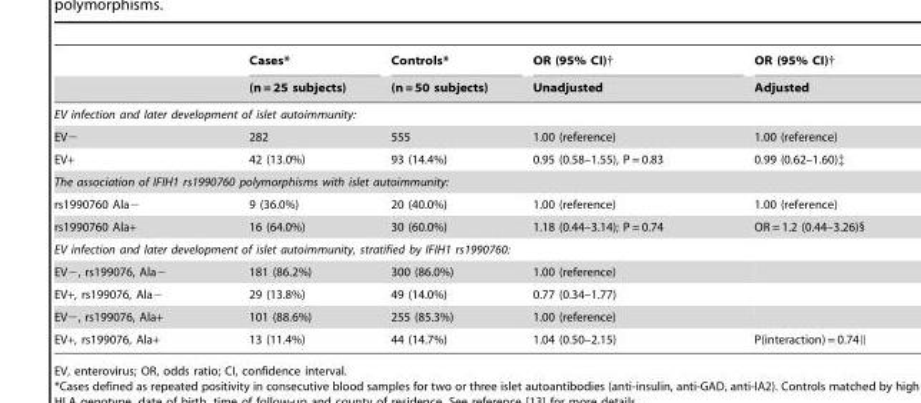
<table><thead><tr><td rowspan="2"></td><td rowspan="2">Cases* (n = 25 subjects)</td><td rowspan="2">Controls* (n = 50 subjects)</td><td rowspan="2">OR (95% CI)† Unadjusted</td><td rowspan="2">OR (95% CI)† Adjusted</td></tr><tr></tr></thead><tbody><tr><td colspan="5">EV infection and later development of islet autoimmunity:</td></tr><tr><td>EV−</td><td>282</td><td>555</td><td>1.00 (reference)</td><td>1.00 (reference)</td></tr><tr><td>EV+</td><td>42 (13.0%)</td><td>93 (14.4%)</td><td>0.95 (0.58–1.55), P = 0.83</td><td>0.99 (0.62–1.60)‡</td></tr><tr><td colspan="5">The association of IFIH1 rs1990760 polymorphisms with islet autoimmunity:</td></tr><tr><td>rs1990760 Ala−</td><td>9 (36.0%)</td><td>20 (40.0%)</td><td>1.00 (reference)</td><td>1.00 (reference)</td></tr><tr><td>rs1990760 Ala+</td><td>16 (64.0%)</td><td>30 (60.0%)</td><td>1.18 (0.44–3.14); P = 0.74</td><td>OR = 1.2 (0.44–3.26)§</td></tr><tr><td colspan="5">EV infection and later development of islet autoimmunity, stratified by IFIH1 rs1990760:</td></tr><tr><td>EV−, rs199076, Ala−</td><td>181 (86.2%)</td><td>300 (86.0%)</td><td>1.00 (reference)</td><td></td></tr><tr><td>EV+, rs199076, Ala−</td><td>29 (13.8%)</td><td>49 (14.0%)</td><td>0.77 (0.34–1.77)</td><td></td></tr><tr><td>EV−, rs199076, Ala+</td><td>101 (88.6%)</td><td>255 (85.3%)</td><td>1.00 (reference)</td><td></td></tr><tr><td>EV+, rs199076, Ala+</td><td>13 (11.4%)</td><td>44 (14.7%)</td><td>1.04 (0.50–2.15)</td><td>P(interaction) = 0.74∥</td></tr></tbody></table>